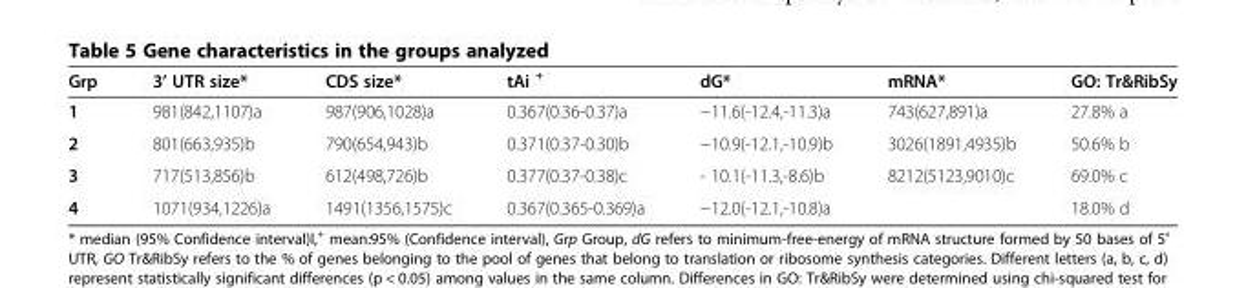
<table><thead><tr><td>Grp</td><td>3’ UTR size*</td><td>CDS size*</td><td>tAi <sup>+</sup></td><td>dG*</td><td>mRNA*</td><td>GO: Tr&amp;RibSy</td></tr></thead><tbody><tr><td>1</td><td>981(842,1107)a</td><td>987(906,1028)a</td><td>0.367(0.36-0.37)a</td><td>−11.6(-12.4,-11.3)a</td><td>743(627,891)a</td><td>27.8% a</td></tr><tr><td>2</td><td>801(663,935)b</td><td>790(654,943)b</td><td>0.371(0.37-0.30)b</td><td>−10.9(-12.1,-10.9)b</td><td>3026(1891,4935)b</td><td>50.6% b</td></tr><tr><td>3</td><td>717(513,856)b</td><td>612(498,726)b</td><td>0.377(0.37-0.38)c</td><td>- 10.1(-11.3,-8.6)b</td><td>8212(5123,9010)c</td><td>69.0% c</td></tr><tr><td>4</td><td>1071(934,1226)a</td><td>1491(1356,1575)c</td><td>0.367(0.365-0.369)a</td><td>−12.0(-12.1,-10.8)a</td><td></td><td>18.0% d</td></tr></tbody></table>